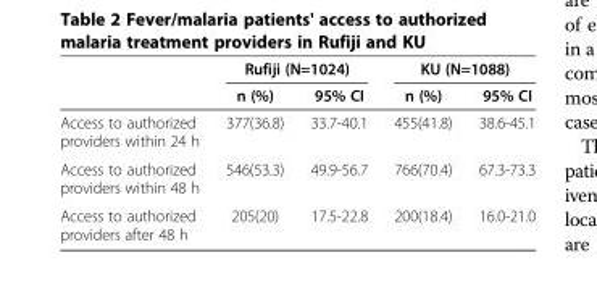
<table><thead><tr><td rowspan="2"></td><td colspan="2">Rufiji (N=1024)</td><td colspan="2">KU (N=1088)</td></tr><tr><td>n (%)</td><td>95% CI</td><td>n (%)</td><td>95% CI</td></tr></thead><tbody><tr><td>Access to authorized providers within 24 h</td><td>377(36.8)</td><td>33.7-40.1</td><td>455(41.8)</td><td>38.6-45.1</td></tr><tr><td>Access to authorized providers within 48 h</td><td>546(53.3)</td><td>49.9-56.7</td><td>766(70.4)</td><td>67.3-73.3</td></tr><tr><td>Access to authorized providers after 48 h</td><td>205(20)</td><td>17.5-22.8</td><td>200(18.4)</td><td>16.0-21.0</td></tr></tbody></table>